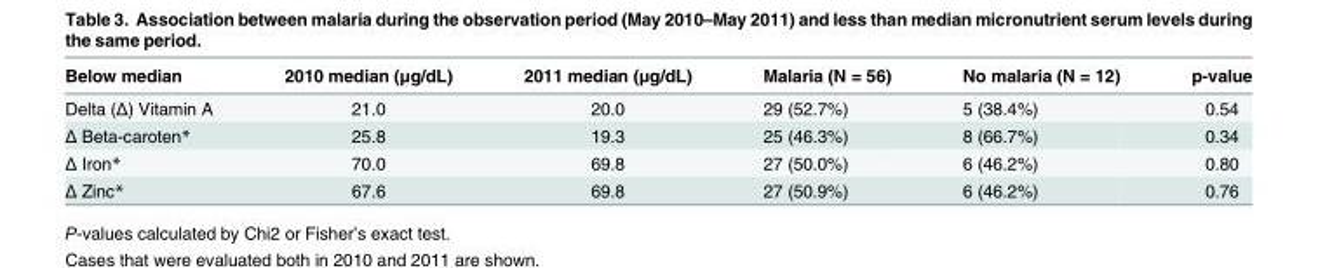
<table><thead><tr><td>Below median</td><td>2010 median (μg/dL)</td><td>2011 median (μg/dL)</td><td>Malaria (N = 56)</td><td>No malaria (N = 12)</td><td>p-value</td></tr></thead><tbody><tr><td>Delta (Δ) Vitamin A</td><td>21.0</td><td>20.0</td><td>29 (52.7%)</td><td>5 (38.4%)</td><td>0.54</td></tr><tr><td>Δ Beta-caroten*</td><td>25.8</td><td>19.3</td><td>25 (46.3%)</td><td>8 (66.7%)</td><td>0.34</td></tr><tr><td>Δ Iron*</td><td>70.0</td><td>69.8</td><td>27 (50.0%)</td><td>6 (46.2%)</td><td>0.80</td></tr><tr><td>Δ Zinc*</td><td>67.6</td><td>69.8</td><td>27 (50.9%)</td><td>6 (46.2%)</td><td>0.76</td></tr></tbody></table>